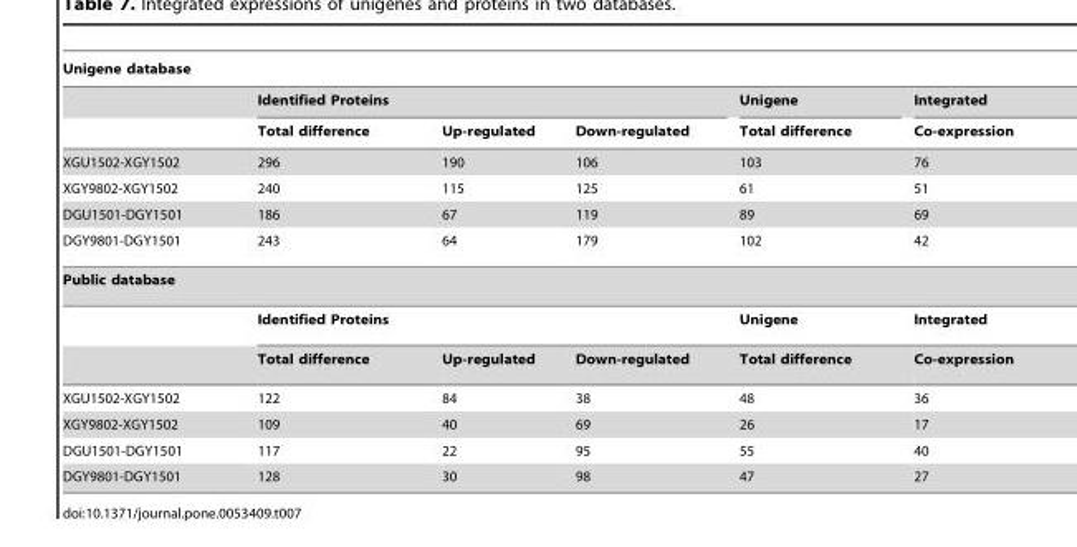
<table><thead><tr><td colspan="6">Unigene database</td></tr><tr><td rowspan="2"></td><td colspan="3">Identified Proteins</td><td rowspan="2">Unigene Total difference</td><td rowspan="2">Integrated Co-expression</td></tr><tr><td>Total difference</td><td>Up-regulated</td><td>Down-regulated</td></tr></thead><tbody><tr><td>XGU1502-XGY1502</td><td>296</td><td>190</td><td>106</td><td>103</td><td>76</td></tr><tr><td>XGY9802-XGY1502</td><td>240</td><td>115</td><td>125</td><td>61</td><td>51</td></tr><tr><td>DGU1501-DGY1501</td><td>186</td><td>67</td><td>119</td><td>89</td><td>69</td></tr><tr><td>DGY9801-DGY1501</td><td>243</td><td>64</td><td>179</td><td>102</td><td>42</td></tr><tr><td colspan="6">Public database</td></tr><tr><td></td><td colspan="3">Identified Proteins</td><td>Unigene</td><td>Integrated</td></tr><tr><td></td><td>Total difference</td><td>Up-regulated</td><td>Down-regulated</td><td>Total difference</td><td>Co-expression</td></tr><tr><td>XGU1502-XGY1502</td><td>122</td><td>84</td><td>38</td><td>48</td><td>36</td></tr><tr><td>XGY9802-XGY1502</td><td>109</td><td>40</td><td>69</td><td>26</td><td>17</td></tr><tr><td>DGU1501-DGY1501</td><td>117</td><td>22</td><td>95</td><td>55</td><td>40</td></tr><tr><td>DGY9801-DGY1501</td><td>128</td><td>30</td><td>98</td><td>47</td><td>27</td></tr></tbody></table>